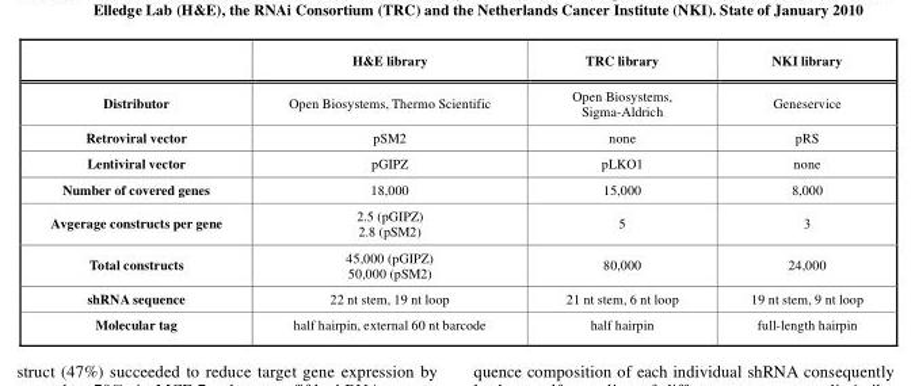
<table><thead><tr><td></td><td>H&amp;E library</td><td>TRC library</td><td>NKI library</td></tr></thead><tbody><tr><td>Distributor</td><td>Open Biosystems, Thermo Scientific</td><td>Open Biosystems, Sigma-Aldrich</td><td>Geneservice</td></tr><tr><td>Retroviral vector</td><td>pSM2</td><td>none</td><td>pRS</td></tr><tr><td>Lentiviral vector</td><td>pGIPZ</td><td>pLKO1</td><td>none</td></tr><tr><td>Number of covered genes</td><td>18,000</td><td>15,000</td><td>8,000</td></tr><tr><td>Avgerage constructs per gene</td><td>2.5 (pGIPZ) 2.8 (pSM2)</td><td>5</td><td>3</td></tr><tr><td>Total constructs</td><td>45,000 (pGIPZ) 50,000 (pSM2)</td><td>80,000</td><td>24,000</td></tr><tr><td>shRNA sequence</td><td>22 nt stem, 19 nt loop</td><td>21 nt stem, 6 nt loop</td><td>19 nt stem, 9 nt loop</td></tr><tr><td>Molecular tag</td><td>half hairpin, external 60 nt barcode</td><td>half hairpin</td><td>full-length hairpin</td></tr></tbody></table>